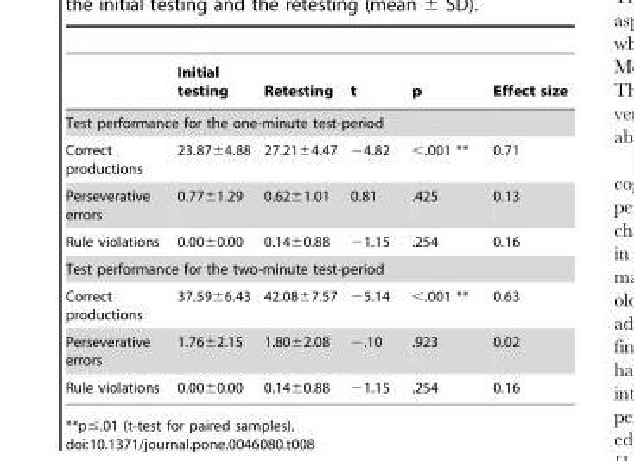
<table><thead><tr><td></td><td>Initial testing</td><td>Retesting</td><td>t</td><td>p</td><td>Effect size</td></tr></thead><tbody><tr><td colspan="6">Test performance for the one-minute test-period</td></tr><tr><td>Correct productions</td><td>23.87±4.88</td><td>27.21±4.47</td><td>−4.82</td><td>&lt;.001 **</td><td>0.71</td></tr><tr><td>Perseverative errors</td><td>0.77±1.29</td><td>0.62±1.01</td><td>0.81</td><td>.425</td><td>0.13</td></tr><tr><td>Rule violations</td><td>0.00±0.00</td><td>0.14±0.88</td><td>−1.15</td><td>.254</td><td>0.16</td></tr><tr><td colspan="6">Test performance for the two-minute test-period</td></tr><tr><td>Correct productions</td><td>37.59±6.43</td><td>42.08±7.57</td><td>−5.14</td><td>&lt;.001 **</td><td>0.63</td></tr><tr><td>Perseverative errors</td><td>1.76±2.15</td><td>1.80±2.08</td><td>−.10</td><td>.923</td><td>0.02</td></tr><tr><td>Rule violations</td><td>0.00±0.00</td><td>0.14±0.88</td><td>−1.15</td><td>.254</td><td>0.16</td></tr></tbody></table>